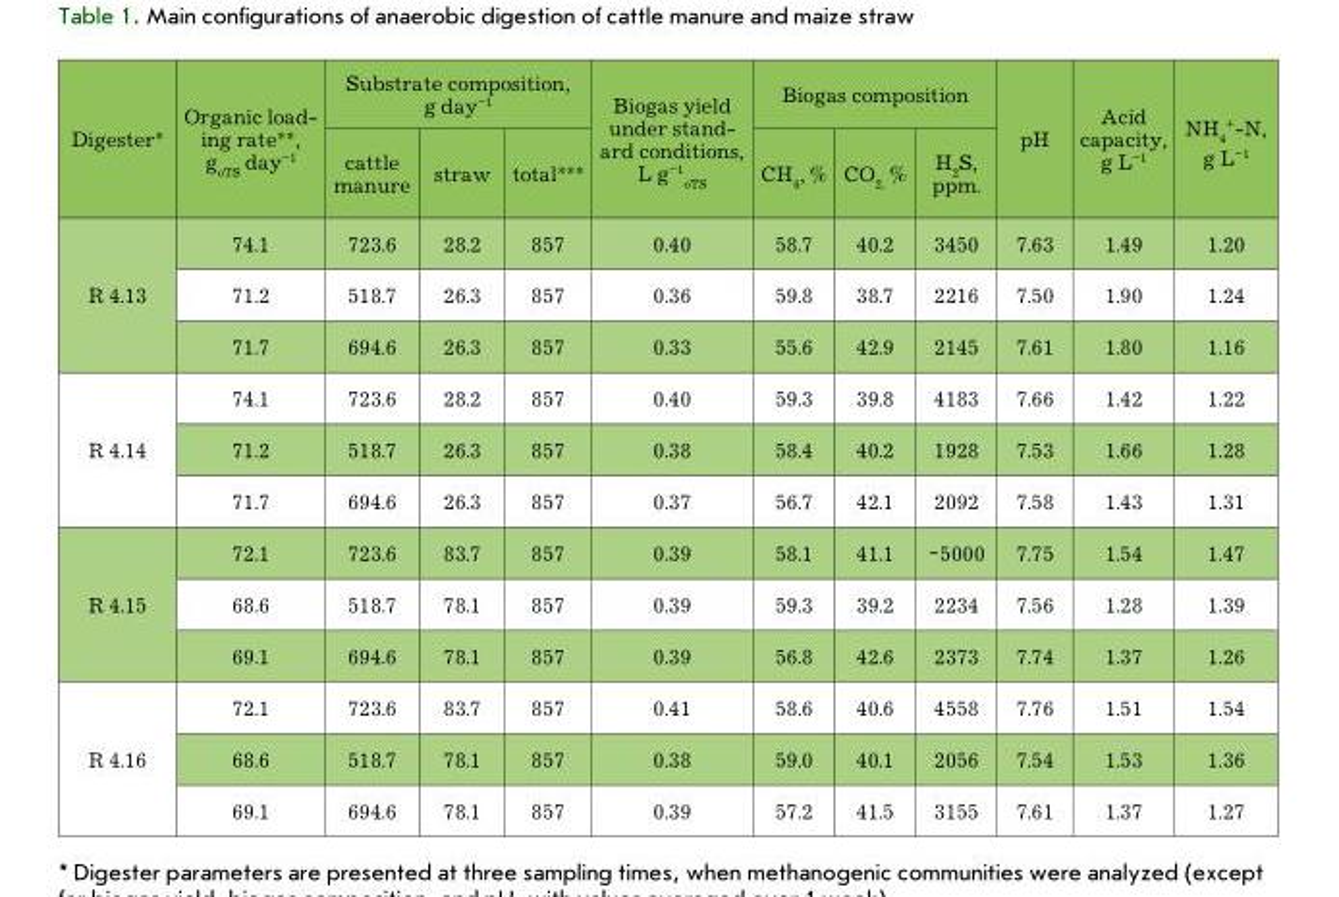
<table><thead><tr><td rowspan="2">Diges ter*</td><td rowspan="2">Organic load- ing rate**, gotS day–1</td><td colspan="3">Substrate composition, g day<sup>–1</sup></td><td rowspan="2">Biogas yield under stand- ard conditions, L g–1 otS</td><td colspan="3">Biogas composition</td><td rowspan="2">pH</td><td rowspan="2">Acid capacity, g L<sup>–1</sup></td><td rowspan="2">nH<sub>4</sub> <sup>+</sup>-n, g L<sup>–1</sup></td></tr><tr><td>cattle manure</td><td>straw</td><td>total***</td><td>cH<sub>4</sub>, %</td><td>cO<sub>2,</sub> %</td><td>H<sub>2</sub>S, ppm.</td></tr></thead><tbody><tr><td rowspan="3">r 4.13</td><td>74.1</td><td>723.6</td><td>28.2</td><td>857</td><td>0.40</td><td>58.7</td><td>40.2</td><td>3450</td><td>7.63</td><td>1.49</td><td>1.20</td></tr><tr><td>71.2</td><td>518.7</td><td>26.3</td><td>857</td><td>0.36</td><td>59.8</td><td>38.7</td><td>2216</td><td>7.50</td><td>1.90</td><td>1.24</td></tr><tr><td>71.7</td><td>694.6</td><td>26.3</td><td>857</td><td>0.33</td><td>55.6</td><td>42.9</td><td>2145</td><td>7.61</td><td>1.80</td><td>1.16</td></tr><tr><td rowspan="3">r 4.14</td><td>74.1</td><td>723.6</td><td>28.2</td><td>857</td><td>0.40</td><td>59.3</td><td>39.8</td><td>4183</td><td>7.66</td><td>1.42</td><td>1.22</td></tr><tr><td>71.2</td><td>518.7</td><td>26.3</td><td>857</td><td>0.38</td><td>58.4</td><td>40.2</td><td>1928</td><td>7.53</td><td>1.66</td><td>1.28</td></tr><tr><td>71.7</td><td>694.6</td><td>26.3</td><td>857</td><td>0.37</td><td>56.7</td><td>42.1</td><td>2092</td><td>7.58</td><td>1.43</td><td>1.31</td></tr><tr><td rowspan="3">r 4.15</td><td>72.1</td><td>723.6</td><td>83.7</td><td>857</td><td>0.39</td><td>58.1</td><td>41.1</td><td>~5000</td><td>7.75</td><td>1.54</td><td>1.47</td></tr><tr><td>68.6</td><td>518.7</td><td>78.1</td><td>857</td><td>0.39</td><td>59.3</td><td>39.2</td><td>2234</td><td>7.56</td><td>1.28</td><td>1.39</td></tr><tr><td>69.1</td><td>694.6</td><td>78.1</td><td>857</td><td>0.39</td><td>56.8</td><td>42.6</td><td>2373</td><td>7.74</td><td>1.37</td><td>1.26</td></tr><tr><td rowspan="3">r 4.16</td><td>72.1</td><td>723.6</td><td>83.7</td><td>857</td><td>0.41</td><td>58.6</td><td>40.6</td><td>4558</td><td>7.76</td><td>1.51</td><td>1.54</td></tr><tr><td>68.6</td><td>518.7</td><td>78.1</td><td>857</td><td>0.38</td><td>59.0</td><td>40.1</td><td>2056</td><td>7.54</td><td>1.53</td><td>1.36</td></tr><tr><td>69.1</td><td>694.6</td><td>78.1</td><td>857</td><td>0.39</td><td>57.2</td><td>41.5</td><td>3155</td><td>7.61</td><td>1.37</td><td>1.27</td></tr></tbody></table>